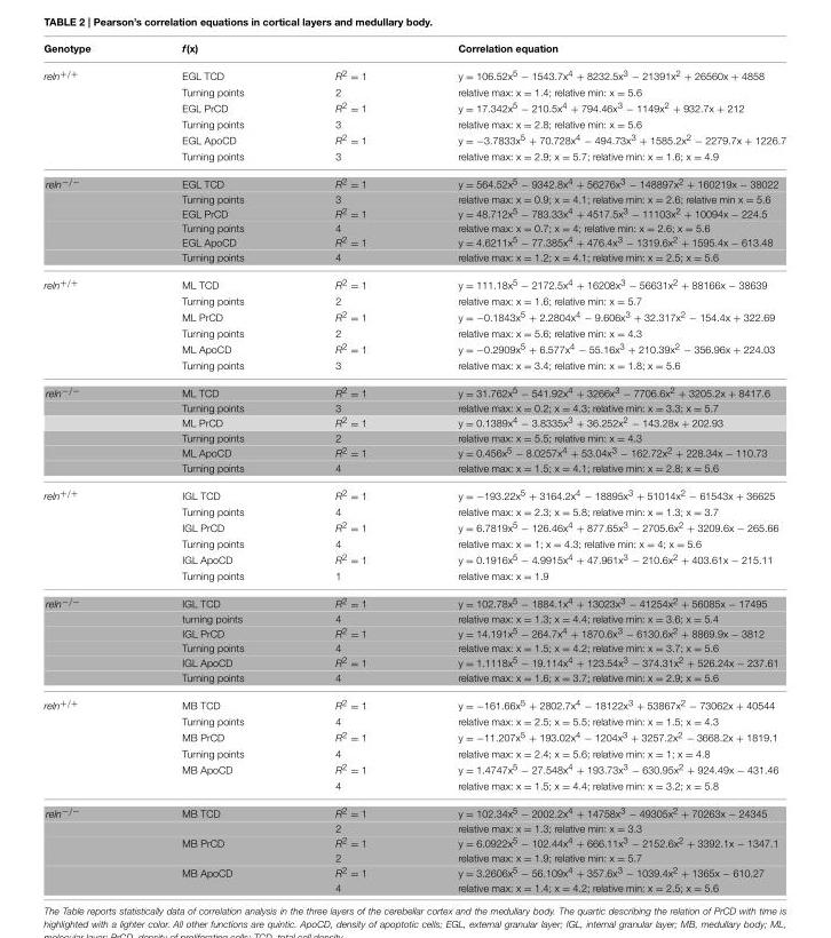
<table><thead><tr><td>Genotype</td><td>f(x)</td><td></td><td>Correlation equation</td></tr></thead><tbody><tr><td rowspan="6">reln+/+</td><td>EGL TCD</td><td>R<sup>2</sup> = 1</td><td>y = 106.52x<sup>5</sup> − 1543.7x<sup>4</sup> + 8232.5x<sup>3</sup> − 21391x<sup>2</sup> + 26560x + 4858</td></tr><tr><td>Turning points</td><td>2</td><td>relative max: x = 1.4; relative min: x = 5.6</td></tr><tr><td>EGL PrCD</td><td>R<sup>2</sup> = 1</td><td>y = 17.342x<sup>5</sup> − 210.5x<sup>4</sup> + 794.46x<sup>3</sup> − 1149x<sup>2</sup> + 932.7x + 212</td></tr><tr><td>Turning points</td><td>3</td><td>relative max: x = 2.8; relative min: x = 5.6</td></tr><tr><td>EGL ApoCD</td><td>R<sup>2</sup> = 1</td><td>y = −3.7833x<sup>5</sup> + 70.728x<sup>4</sup> − 494.73x<sup>3</sup> + 1585.2x<sup>2</sup> − 2279.7x + 1226.7</td></tr><tr><td>Turning points</td><td>3</td><td>relative max: x = 2.9; x = 5.7; relative min: x = 1.6; x = 4.9</td></tr><tr><td rowspan="6">reln−/−</td><td>EGL TCD</td><td>R<sup>2</sup> = 1</td><td>y = 564.52x<sup>5</sup> − 9342.8x<sup>4</sup> + 56276x<sup>3</sup> − 148897x<sup>2</sup> + 160219x − 38022</td></tr><tr><td>Turning points</td><td>3</td><td>relative max: x = 0.9; x = 4.1; relative min: x = 2.6; relative min x = 5.6</td></tr><tr><td>EGL PrCD</td><td>R<sup>2</sup> = 1</td><td>y = 48.712x<sup>5</sup> − 783.33x<sup>4</sup> + 4517.5x<sup>3</sup> − 11103x<sup>2</sup> + 10094x − 224.5</td></tr><tr><td>Turning points</td><td>4</td><td>relative max: x = 0.7; x = 4; relative min: x = 2.6; x = 5.6</td></tr><tr><td>EGL ApoCD</td><td>R<sup>2</sup> = 1</td><td>y = 4.6211x<sup>5</sup> − 77.385x<sup>4</sup> + 476.4x<sup>3</sup> − 1319.6x<sup>2</sup> + 1595.4x − 613.48</td></tr><tr><td>Turning points</td><td>4</td><td>relative max: x = 1.2; x = 4.1; relative min: x = 2.5; x = 5.6</td></tr><tr><td rowspan="6">reln+/+</td><td>ML TCD</td><td>R<sup>2</sup> = 1</td><td>y = 111.18x<sup>5</sup> − 2172.5x<sup>4</sup> + 16208x<sup>3</sup> − 56631x<sup>2</sup> + 88166x − 38639</td></tr><tr><td>Turning points</td><td>2</td><td>relative max: x = 1.6; relative min: x = 5.7</td></tr><tr><td>ML PrCD</td><td>R<sup>2</sup> = 1</td><td>y = −0.1843x<sup>5</sup> + 2.2804x<sup>4</sup> − 9.606x<sup>3</sup> + 32.317x<sup>2</sup> − 154.4x + 322.69</td></tr><tr><td>Turning points</td><td>2</td><td>relative max: x = 5.6; relative min: x = 4.3</td></tr><tr><td>ML ApoCD</td><td>R<sup>2</sup> = 1</td><td>y = −0.2909x<sup>5</sup> + 6.577x<sup>4</sup> − 55.16x<sup>3</sup> + 210.39x<sup>2</sup> − 356.96x + 224.03</td></tr><tr><td>Turning points</td><td>3</td><td>relative max: x = 3.4; relative min: x = 1.8; x = 5.6</td></tr><tr><td rowspan="6">reln−/−</td><td>ML TCD</td><td>R<sup>2</sup> = 1</td><td>y = 31.762x<sup>5</sup> − 541.92x<sup>4</sup> + 3266x<sup>3</sup> − 7706.6x<sup>2</sup> + 3205.2x + 8417.6</td></tr><tr><td>Turning points</td><td>3</td><td>relative max: x = 0.2; x = 4.3; relative min: x = 3.3; x = 5.7</td></tr><tr><td>ML PrCD</td><td>R<sup>2</sup> = 1</td><td>y = 0.1389x<sup>4</sup> − 3.8335x<sup>3</sup> + 36.252x<sup>2</sup> − 143.28x + 202.93</td></tr><tr><td>Turning points</td><td>2</td><td>relative max: x = 5.5; relative min: x = 4.3</td></tr><tr><td>ML ApoCD</td><td>R<sup>2</sup> = 1</td><td>y = 0.456x<sup>5</sup> − 8.0257x<sup>4</sup> + 53.04x<sup>3</sup> − 162.72x<sup>2</sup> + 228.34x − 110.73</td></tr><tr><td>Turning points</td><td>4</td><td>relative max: x = 1.5; x = 4.1; relative min: x = 2.8; x = 5.6</td></tr><tr><td rowspan="6">reln+/+</td><td>IGL TCD</td><td>R<sup>2</sup> = 1</td><td>y = −193.22x<sup>5</sup> + 3164.2x<sup>4</sup> − 18895x<sup>3</sup> + 51014x<sup>2</sup> − 61543x + 36625</td></tr><tr><td>Turning points</td><td>4</td><td>relative max: x = 2.3; x = 5.8; relative min: x = 1.3; x = 3.7</td></tr><tr><td>IGL PrCD</td><td>R<sup>2</sup> = 1</td><td>y = 6.7819x<sup>5</sup> − 126.46x<sup>4</sup> + 877.65x<sup>3</sup> − 2705.6x<sup>2</sup> + 3209.6x − 265.66</td></tr><tr><td>Turning points</td><td>4</td><td>relative max: x = 1; x = 4.3; relative min: x = 4; x = 5.6</td></tr><tr><td>IGL ApoCD</td><td>R<sup>2</sup> = 1</td><td>y = 0.1916x<sup>5</sup> − 4.9915x<sup>4</sup> + 47.961x<sup>3</sup> − 210.6x<sup>2</sup> + 403.61x − 215.11</td></tr><tr><td>Turning points</td><td>1</td><td>relative max: x = 1.9</td></tr><tr><td rowspan="6">reln−/−</td><td>IGL TCD</td><td>R<sup>2</sup> = 1</td><td>y = 102.78x<sup>5</sup> − 1884.1x<sup>4</sup> + 13023x<sup>3</sup> − 41254x<sup>2</sup> + 56085x − 17495</td></tr><tr><td>turning points</td><td>4</td><td>relative max: x = 1.3; x = 4.4; relative min: x = 3.6; x = 5.4</td></tr><tr><td>IGL PrCD</td><td>R<sup>2</sup> = 1</td><td>y = 14.191x<sup>5</sup> − 264.7x<sup>4</sup> + 1870.6x<sup>3</sup> − 6130.6x<sup>2</sup> + 8869.9x − 3812</td></tr><tr><td>Turning points</td><td>4</td><td>relative max: x = 1.5; x = 4.2; relative min: x = 3.7; x = 5.6</td></tr><tr><td>IGL ApoCD</td><td>R<sup>2</sup> = 1</td><td>y = 1.1118x<sup>5</sup> − 19.114x<sup>4</sup> + 123.54x<sup>3</sup> − 374.31x<sup>2</sup> + 526.24x − 237.61</td></tr><tr><td>Turning points</td><td>4</td><td>relative max: x = 1.6; x = 3.7; relative min: x = 2.9; x = 5.6</td></tr><tr><td rowspan="6">reln+/+</td><td>MB TCD</td><td>R<sup>2</sup> = 1</td><td>y = −161.66x<sup>5</sup> + 2802.7x<sup>4</sup> − 18122x<sup>3</sup> + 53867x<sup>2</sup> − 73062x + 40544</td></tr><tr><td>Turning points</td><td>4</td><td>relative max: x = 2.5; x = 5.5; relative min: x = 1.5; x = 4.3</td></tr><tr><td>MB PrCD</td><td>R<sup>2</sup> = 1</td><td>y = −11.207x<sup>5</sup> + 193.02x<sup>4</sup> − 1204x<sup>3</sup> + 3257.2x<sup>2</sup> − 3668.2x + 1819.1</td></tr><tr><td>Turning points</td><td>4</td><td>relative max: x = 2.4; x = 5.6; relative min: x = 1; x = 4.8</td></tr><tr><td>MB ApoCD</td><td>R<sup>2</sup> = 1</td><td>y = 1.4747x<sup>5</sup> − 27.548x<sup>4</sup> + 193.73x<sup>3</sup> − 630.95x<sup>2</sup> + 924.49x − 431.46</td></tr><tr><td></td><td>4</td><td>relative max: x = 1.5; x = 4.4; relative min: x = 3.2; x = 5.8</td></tr><tr><td rowspan="6">reln−/−</td><td>MB TCD</td><td>R<sup>2</sup> = 1</td><td>y = 102.34x<sup>5</sup> − 2002.2x<sup>4</sup> + 14758x<sup>3</sup> − 49305x<sup>2</sup> + 70263x − 24345</td></tr><tr><td></td><td>2</td><td>relative max: x = 1.3; relative min: x = 3.3</td></tr><tr><td>MB PrCD</td><td>R<sup>2</sup> = 1</td><td>y = 6.0922x<sup>5</sup> − 102.44x<sup>4</sup> + 666.11x<sup>3</sup> − 2152.6x<sup>2</sup> + 3392.1x − 1347.1</td></tr><tr><td></td><td>2</td><td>relative max: x = 1.9; relative min: x = 5.7</td></tr><tr><td>MB ApoCD</td><td>R<sup>2</sup> = 1</td><td>y = 3.2606x<sup>5</sup> − 56.109x<sup>4</sup> + 357.6x<sup>3</sup> − 1039.4x<sup>2</sup> + 1365x − 610.27</td></tr><tr><td></td><td>4</td><td>relative max: x = 1.4; x = 4.2; relative min: x = 2.5; x = 5.6</td></tr></tbody></table>